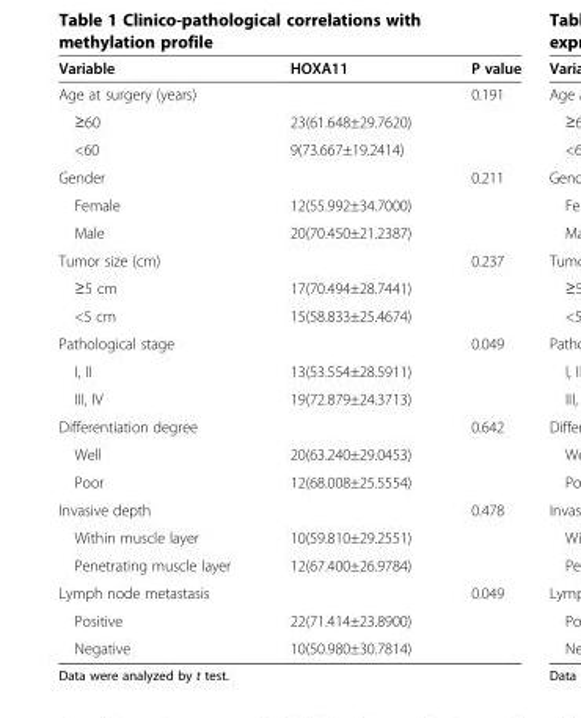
<table><thead><tr><td>Variable</td><td>HOXA11</td><td>P value</td></tr></thead><tbody><tr><td>Age at surgery (years)</td><td></td><td>0.191</td></tr><tr><td>≥60</td><td>23(61.648±29.7620)</td><td></td></tr><tr><td>&lt;60</td><td>9(73.667±19.2414)</td><td></td></tr><tr><td>Gender</td><td></td><td>0.211</td></tr><tr><td>Female</td><td>12(55.992±34.7000)</td><td></td></tr><tr><td>Male</td><td>20(70.450±21.2387)</td><td></td></tr><tr><td>Tumor size (cm)</td><td></td><td>0.237</td></tr><tr><td>≥5 cm</td><td>17(70.494±28.7441)</td><td></td></tr><tr><td>&lt;5 cm</td><td>15(58.833±25.4674)</td><td></td></tr><tr><td>Pathological stage</td><td></td><td>0.049</td></tr><tr><td>I, II</td><td>13(53.554±28.5911)</td><td></td></tr><tr><td>III, IV</td><td>19(72.879±24.3713)</td><td></td></tr><tr><td>Differentiation degree</td><td></td><td>0.642</td></tr><tr><td>Well</td><td>20(63.240±29.0453)</td><td></td></tr><tr><td>Poor</td><td>12(68.008±25.5554)</td><td></td></tr><tr><td>Invasive depth</td><td></td><td>0.478</td></tr><tr><td>Within muscle layer</td><td>10(59.810±29.2551)</td><td></td></tr><tr><td>Penetrating muscle layer</td><td>12(67.400±26.9784)</td><td></td></tr><tr><td>Lymph node metastasis</td><td></td><td>0.049</td></tr><tr><td>Positive</td><td>22(71.414±23.8900)</td><td></td></tr><tr><td>Negative</td><td>10(50.980±30.7814)</td><td></td></tr></tbody></table>